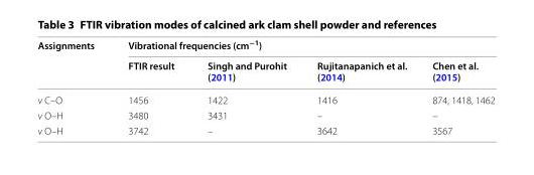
<table><thead><tr><td rowspan="2">Assignments</td><td colspan="4">Vibrational frequencies (cm<sup>−1</sup>)</td></tr><tr><td>FTIR result</td><td>Singh and Purohit (2011)</td><td>Rujitanapanich et al. (2014)</td><td>Chen et al. (2015)</td></tr></thead><tbody><tr><td>v C–O</td><td>1456</td><td>1422</td><td>1416</td><td>874, 1418, 1462</td></tr><tr><td>v O–H</td><td>3480</td><td>3431</td><td>–</td><td>–</td></tr><tr><td>v O–H</td><td>3742</td><td>–</td><td>3642</td><td>3567</td></tr></tbody></table>